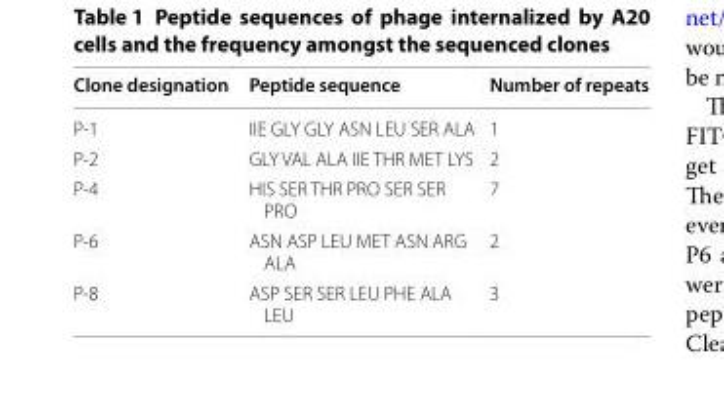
<table><thead><tr><td>Clone designation</td><td>Peptide sequence</td><td>Number of repeats</td></tr></thead><tbody><tr><td>P‑1</td><td>IIE GLY GLY ASN LEU SER ALA</td><td>1</td></tr><tr><td>P‑2</td><td>GLY VAL ALA IIE THR MET LYS</td><td>2</td></tr><tr><td>P‑4</td><td>HIS SER THR PRO SER SER PRO</td><td>7</td></tr><tr><td>P‑6</td><td>ASN ASP LEU MET ASN ARG ALA</td><td>2</td></tr><tr><td>P‑8</td><td>ASP SER SER LEU PHE ALA LEU</td><td>3</td></tr></tbody></table>